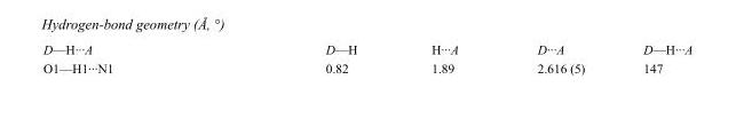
<table><tbody><tr><td>D—H···A</td><td>D—H</td><td>H···A</td><td>D···A</td><td>D—H···A</td></tr><tr><td>O1—H1···N1</td><td>0.82</td><td>1.89</td><td>2.616 (5)</td><td>147</td></tr></tbody></table>